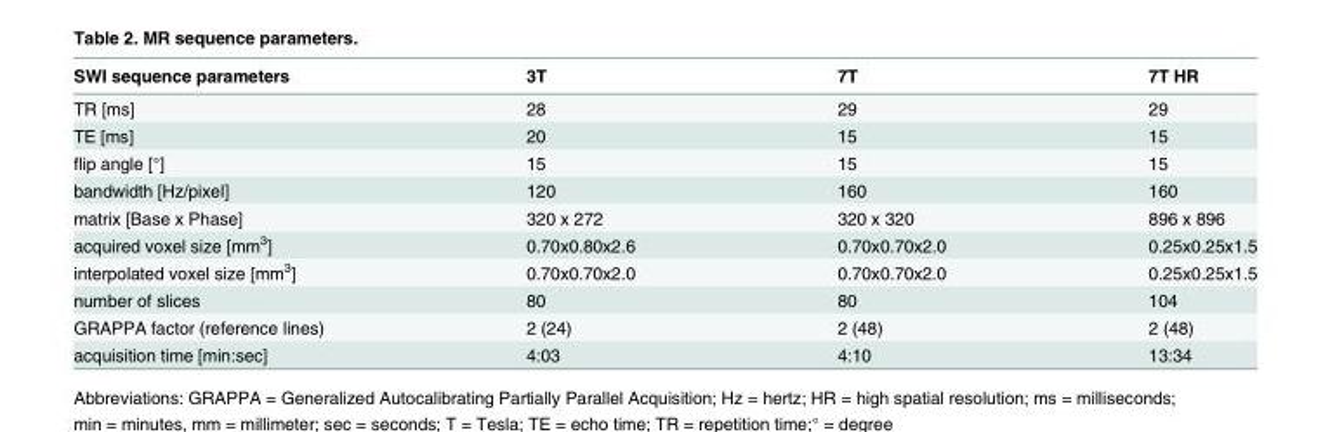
<table><thead><tr><td>SWI sequence parameters</td><td>3T</td><td>7T</td><td>7T HR</td></tr></thead><tbody><tr><td>TR [ms]</td><td>28</td><td>29</td><td>29</td></tr><tr><td>TE [ms]</td><td>20</td><td>15</td><td>15</td></tr><tr><td>flip angle [°]</td><td>15</td><td>15</td><td>15</td></tr><tr><td>bandwidth [Hz/pixel]</td><td>120</td><td>160</td><td>160</td></tr><tr><td>matrix [Base x Phase]</td><td>320 x 272</td><td>320 x 320</td><td>896 x 896</td></tr><tr><td>acquired voxel size [mm<sup>3</sup>]</td><td>0.70x0.80x2.6</td><td>0.70x0.70x2.0</td><td>0.25x0.25x1.5</td></tr><tr><td>interpolated voxel size [mm<sup>3</sup>]</td><td>0.70x0.70x2.0</td><td>0.70x0.70x2.0</td><td>0.25x0.25x1.5</td></tr><tr><td>number of slices</td><td>80</td><td>80</td><td>104</td></tr><tr><td>GRAPPA factor (reference lines)</td><td>2 (24)</td><td>2 (48)</td><td>2 (48)</td></tr><tr><td>acquisition time [min:sec]</td><td>4:03</td><td>4:10</td><td>13:34</td></tr></tbody></table>